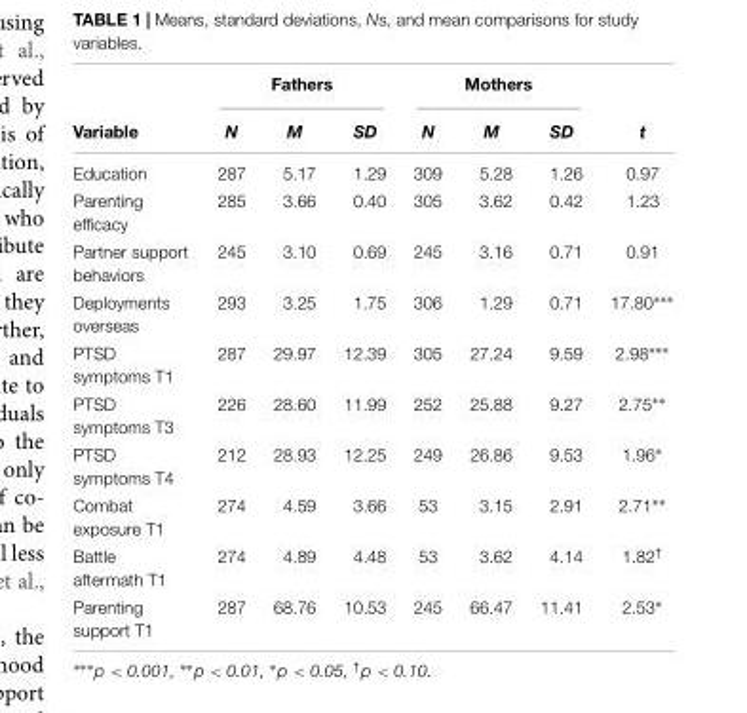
<table><thead><tr><td rowspan="2">Variable</td><td colspan="3">Fathers</td><td colspan="3">Mothers</td><td rowspan="2">t</td></tr><tr><td>N</td><td>M</td><td>SD</td><td>N</td><td>M</td><td>SD</td></tr></thead><tbody><tr><td>Education</td><td>287</td><td>5.17</td><td>1.29</td><td>309</td><td>5.28</td><td>1.26</td><td>0.97</td></tr><tr><td>Parenting efficacy</td><td>285</td><td>3.66</td><td>0.40</td><td>305</td><td>3.62</td><td>0.42</td><td>1.23</td></tr><tr><td>Partner support behaviors</td><td>245</td><td>3.10</td><td>0.69</td><td>245</td><td>3.16</td><td>0.71</td><td>0.91</td></tr><tr><td>Deployments overseas</td><td>293</td><td>3.25</td><td>1.75</td><td>306</td><td>1.29</td><td>0.71</td><td>17.80∗∗∗</td></tr><tr><td>PTSD symptoms T1</td><td>287</td><td>29.97</td><td>12.39</td><td>305</td><td>27.24</td><td>9.59</td><td>2.98∗∗∗</td></tr><tr><td>PTSD symptoms T3</td><td>226</td><td>28.60</td><td>11.99</td><td>252</td><td>25.88</td><td>9.27</td><td>2.75∗∗</td></tr><tr><td>PTSD symptoms T4</td><td>212</td><td>28.93</td><td>12.25</td><td>249</td><td>26.86</td><td>9.53</td><td>1.96∗</td></tr><tr><td>Combat exposure T1</td><td>274</td><td>4.59</td><td>3.66</td><td>53</td><td>3.15</td><td>2.91</td><td>2.71∗∗</td></tr><tr><td>Battle aftermath T1</td><td>274</td><td>4.89</td><td>4.48</td><td>53</td><td>3.62</td><td>4.14</td><td>1.82<sup>†</sup></td></tr><tr><td>Parenting support T1</td><td>287</td><td>68.76</td><td>10.53</td><td>245</td><td>66.47</td><td>11.41</td><td>2.53∗</td></tr></tbody></table>